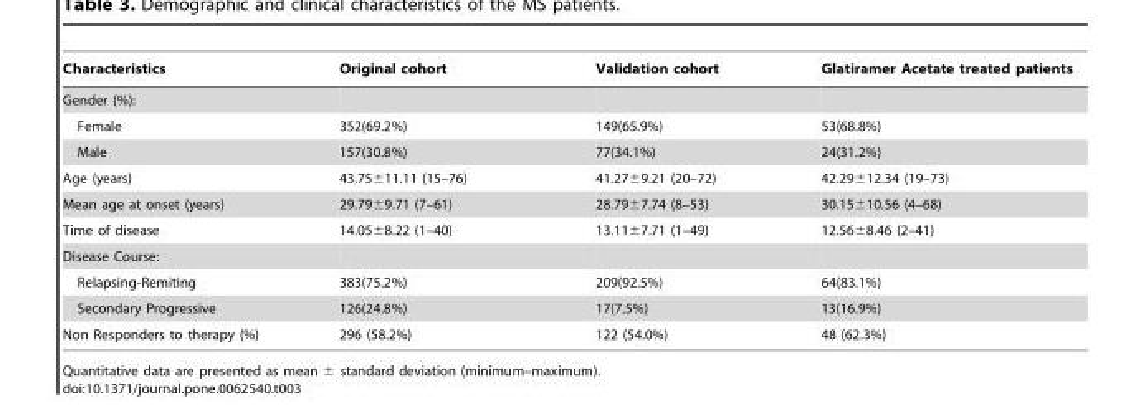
<table><thead><tr><td>Characteristics</td><td>Original cohort</td><td>Validation cohort</td><td>Glatiramer Acetate treated patients</td></tr></thead><tbody><tr><td colspan="4">Gender (%):</td></tr><tr><td>Female</td><td>352(69.2%)</td><td>149(65.9%)</td><td>53(68.8%)</td></tr><tr><td>Male</td><td>157(30.8%)</td><td>77(34.1%)</td><td>24(31.2%)</td></tr><tr><td>Age (years)</td><td>43.75±11.11 (15–76)</td><td>41.27±9.21 (20–72)</td><td>42.29±12.34 (19–73)</td></tr><tr><td>Mean age at onset (years)</td><td>29.79±9.71 (7–61)</td><td>28.79±7.74 (8–53)</td><td>30.15±10.56 (4–68)</td></tr><tr><td>Time of disease</td><td>14.05±8.22 (1–40)</td><td>13.11±7.71 (1–49)</td><td>12.56±8.46 (2–41)</td></tr><tr><td colspan="4">Disease Course:</td></tr><tr><td>Relapsing-Remiting</td><td>383(75.2%)</td><td>209(92.5%)</td><td>64(83.1%)</td></tr><tr><td>Secondary Progressive</td><td>126(24.8%)</td><td>17(7.5%)</td><td>13(16.9%)</td></tr><tr><td>Non Responders to therapy (%)</td><td>296 (58.2%)</td><td>122 (54.0%)</td><td>48 (62.3%)</td></tr></tbody></table>